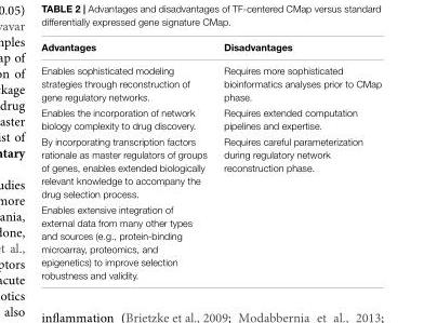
<table><thead><tr><td>Advantages</td><td>Disadvantages</td></tr></thead><tbody><tr><td>Enables sophisticated modeling strategies through reconstruction of gene regulatory networks.</td><td>Requires more sophisticated bioinformatics analyses prior to CMap phase.</td></tr><tr><td>Enables the incorporation of network biology complexity to drug discovery.</td><td>Requires extended computation pipelines and expertise.</td></tr><tr><td>By incorporating transcription factors rationale as master regulators of groups of genes, enables extended biologically relevant knowledge to accompany the drug selection process.</td><td>Requires careful parameterization during regulatory network reconstruction phase.</td></tr><tr><td>Enables extensive integration of external data from many other types and sources (e.g., protein-binding microarray, proteomics, and epigenetics) to improve selection robustness and validity.</td><td></td></tr></tbody></table>